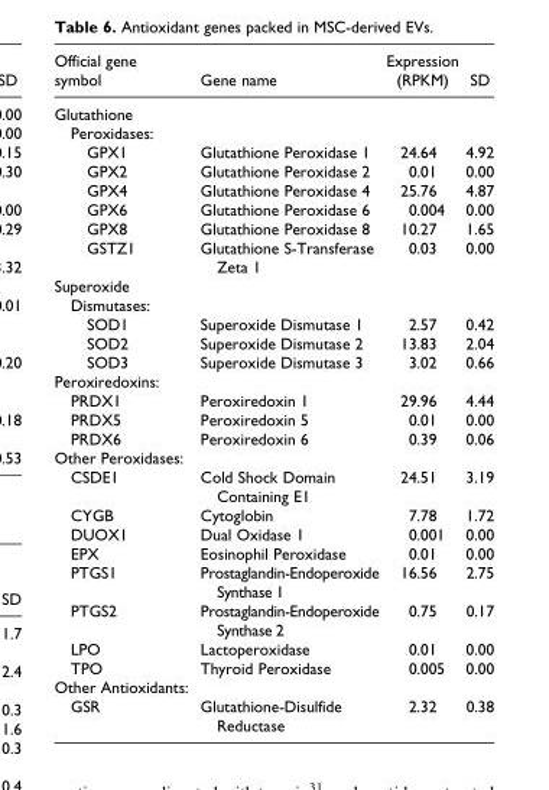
<table><thead><tr><td>Official gene symbol</td><td>Gene name</td><td>Expression (RPKM)</td><td>SD</td></tr></thead><tbody><tr><td colspan="4">Glutathione Peroxidases:</td></tr><tr><td>GPX1</td><td>Glutathione Peroxidase 1</td><td>24.64</td><td>4.92</td></tr><tr><td>GPX2</td><td>Glutathione Peroxidase 2</td><td>0.01</td><td>0.00</td></tr><tr><td>GPX4</td><td>Glutathione Peroxidase 4</td><td>25.76</td><td>4.87</td></tr><tr><td>GPX6</td><td>Glutathione Peroxidase 6</td><td>0.004</td><td>0.00</td></tr><tr><td>GPX8</td><td>Glutathione Peroxidase 8</td><td>10.27</td><td>1.65</td></tr><tr><td>GSTZ1</td><td>Glutathione S-Transferase Zeta 1</td><td>0.03</td><td>0.00</td></tr><tr><td colspan="4">Superoxide Dismutases:</td></tr><tr><td>SOD1</td><td>Superoxide Dismutase 1</td><td>2.57</td><td>0.42</td></tr><tr><td>SOD2</td><td>Superoxide Dismutase 2</td><td>13.83</td><td>2.04</td></tr><tr><td>SOD3</td><td>Superoxide Dismutase 3</td><td>3.02</td><td>0.66</td></tr><tr><td colspan="4">Peroxiredoxins:</td></tr><tr><td>PRDX1</td><td>Peroxiredoxin 1</td><td>29.96</td><td>4.44</td></tr><tr><td>PRDX5</td><td>Peroxiredoxin 5</td><td>0.01</td><td>0.00</td></tr><tr><td>PRDX6</td><td>Peroxiredoxin 6</td><td>0.39</td><td>0.06</td></tr><tr><td colspan="4">Other Peroxidases:</td></tr><tr><td>CSDE1</td><td>Cold Shock Domain Containing E1</td><td>24.51</td><td>3.19</td></tr><tr><td>CYGB</td><td>Cytoglobin</td><td>7.78</td><td>1.72</td></tr><tr><td>DUOX1</td><td>Dual Oxidase 1</td><td>0.001</td><td>0.00</td></tr><tr><td>EPX</td><td>Eosinophil Peroxidase</td><td>0.01</td><td>0.00</td></tr><tr><td>PTGS1</td><td>Prostaglandin-Endoperoxide Synthase 1</td><td>16.56</td><td>2.75</td></tr><tr><td>PTGS2</td><td>Prostaglandin-Endoperoxide Synthase 2</td><td>0.75</td><td>0.17</td></tr><tr><td>LPO</td><td>Lactoperoxidase</td><td>0.01</td><td>0.00</td></tr><tr><td>TPO</td><td>Thyroid Peroxidase</td><td>0.005</td><td>0.00</td></tr><tr><td colspan="4">Other Antioxidants:</td></tr><tr><td>GSR</td><td>Glutathione-Disulfide Reductase</td><td>2.32</td><td>0.38</td></tr></tbody></table>